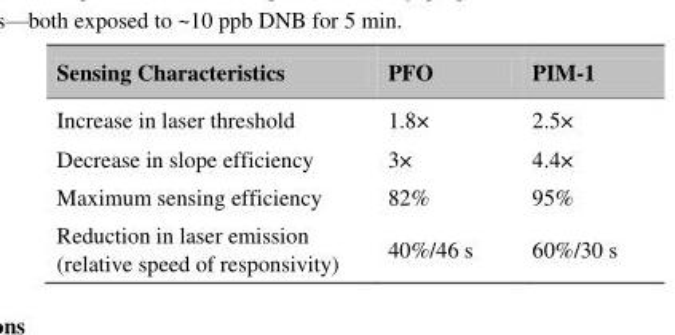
<table><thead><tr><td>Sensing Characteristics</td><td>PFO</td><td>PIM-1</td></tr></thead><tbody><tr><td>Increase in laser threshold</td><td>1.8×</td><td>2.5×</td></tr><tr><td>Decrease in slope efficiency</td><td>3×</td><td>4.4×</td></tr><tr><td>Maximum sensing efficiency</td><td>82%</td><td>95%</td></tr><tr><td>Reduction in laser emission (relative speed of responsivity)</td><td>40%/46 s</td><td>60%/30 s</td></tr></tbody></table>